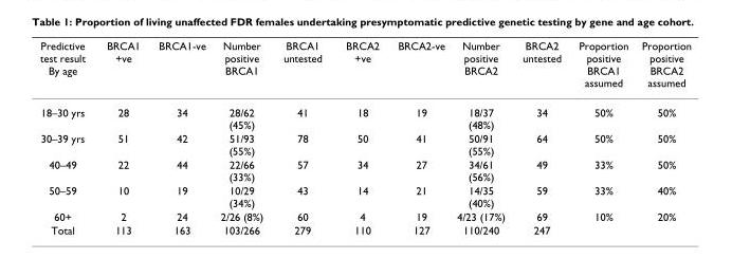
<table><thead><tr><td>Predictive test result By age</td><td>BRCA1 +ve</td><td>BRCA1-ve</td><td>Number positive BRCA1</td><td>BRCA1 untested</td><td>BRCA2 +ve</td><td>BRCA2-ve</td><td>Number positive BRCA2</td><td>BRCA2 untested</td><td>Proportion positive BRCA1 assumed</td><td>Proportion positive BRCA2 assumed</td></tr></thead><tbody><tr><td>18–30 yrs</td><td>28</td><td>34</td><td>28/62 (45%)</td><td>41</td><td>18</td><td>19</td><td>18/37 (48%)</td><td>34</td><td>50%</td><td>50%</td></tr><tr><td>30–39 yrs</td><td>51</td><td>42</td><td>51/93 (55%)</td><td>78</td><td>50</td><td>41</td><td>50/91 (55%)</td><td>64</td><td>50%</td><td>50%</td></tr><tr><td>40–49</td><td>22</td><td>44</td><td>22/66 (33%)</td><td>57</td><td>34</td><td>27</td><td>34/61 (56%)</td><td>49</td><td>33%</td><td>50%</td></tr><tr><td>50–59</td><td>10</td><td>19</td><td>10/29 (34%)</td><td>43</td><td>14</td><td>21</td><td>14/35 (40%)</td><td>59</td><td>33%</td><td>40%</td></tr><tr><td>60+</td><td>2</td><td>24</td><td>2/26 (8%)</td><td>60</td><td>4</td><td>19</td><td>4/23 (17%)</td><td>69</td><td>10%</td><td>20%</td></tr><tr><td>Total</td><td>113</td><td>163</td><td>103/266</td><td>279</td><td>110</td><td>127</td><td>110/240</td><td>247</td><td></td><td></td></tr></tbody></table>